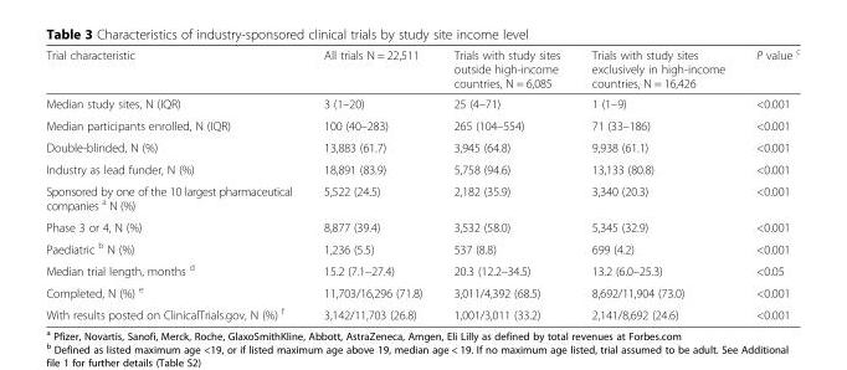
<table><thead><tr><td>Trial characteristic</td><td>All trials N = 22,511</td><td>Trials with study sites outside high-income countries, N = 6,085</td><td>Trials with study sites exclusively in high-income countries, N = 16,426</td><td>P value <sup>c</sup></td></tr></thead><tbody><tr><td>Median study sites, N (IQR)</td><td>3 (1–20)</td><td>25 (4–71)</td><td>1 (1–9)</td><td>&lt;0.001</td></tr><tr><td>Median participants enrolled, N (IQR)</td><td>100 (40–283)</td><td>265 (104–554)</td><td>71 (33–186)</td><td>&lt;0.001</td></tr><tr><td>Double-blinded, N (%)</td><td>13,883 (61.7)</td><td>3,945 (64.8)</td><td>9,938 (61.1)</td><td>&lt;0.001</td></tr><tr><td>Industry as lead funder, N (%)</td><td>18,891 (83.9)</td><td>5,758 (94.6)</td><td>13,133 (80.8)</td><td>&lt;0.001</td></tr><tr><td>Sponsored by one of the 10 largest pharmaceutical companies <sup>a</sup> N (%)</td><td>5,522 (24.5)</td><td>2,182 (35.9)</td><td>3,340 (20.3)</td><td>&lt;0.001</td></tr><tr><td>Phase 3 or 4, N (%)</td><td>8,877 (39.4)</td><td>3,532 (58.0)</td><td>5,345 (32.9)</td><td>&lt;0.001</td></tr><tr><td>Paediatric <sup>b</sup> N (%)</td><td>1,236 (5.5)</td><td>537 (8.8)</td><td>699 (4.2)</td><td>&lt;0.001</td></tr><tr><td>Median trial length, months <sup>d</sup></td><td>15.2 (7.1–27.4)</td><td>20.3 (12.2–34.5)</td><td>13.2 (6.0–25.3)</td><td>&lt;0.05</td></tr><tr><td>Completed, N (%) <sup>e</sup></td><td>11,703/16,296 (71.8)</td><td>3,011/4,392 (68.5)</td><td>8,692/11,904 (73.0)</td><td>&lt;0.001</td></tr><tr><td>With results posted on ClinicalTrials.gov, N (%) <sup>f</sup></td><td>3,142/11,703 (26.8)</td><td>1,001/3,011 (33.2)</td><td>2,141/8,692 (24.6)</td><td>&lt;0.001</td></tr></tbody></table>